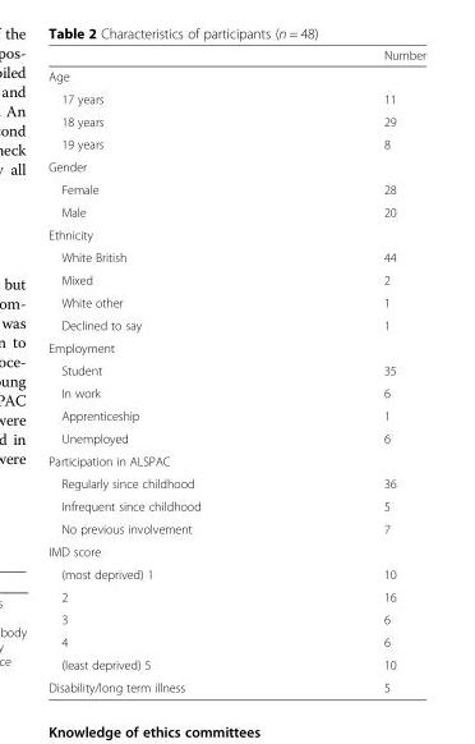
<table><thead><tr><td></td><td>Number</td></tr></thead><tbody><tr><td colspan="2">Age</td></tr><tr><td>17 years</td><td>11</td></tr><tr><td>18 years</td><td>29</td></tr><tr><td>19 years</td><td>8</td></tr><tr><td colspan="2">Gender</td></tr><tr><td>Female</td><td>28</td></tr><tr><td>Male</td><td>20</td></tr><tr><td colspan="2">Ethnicity</td></tr><tr><td>White British</td><td>44</td></tr><tr><td>Mixed</td><td>2</td></tr><tr><td>White other</td><td>1</td></tr><tr><td>Declined to say</td><td>1</td></tr><tr><td colspan="2">Employment</td></tr><tr><td>Student</td><td>35</td></tr><tr><td>In work</td><td>6</td></tr><tr><td>Apprenticeship</td><td>1</td></tr><tr><td>Unemployed</td><td>6</td></tr><tr><td colspan="2">Participation in ALSPAC</td></tr><tr><td>Regularly since childhood</td><td>36</td></tr><tr><td>Infrequent since childhood</td><td>5</td></tr><tr><td>No previous involvement</td><td>7</td></tr><tr><td colspan="2">IMD score</td></tr><tr><td>(most deprived) 1</td><td>10</td></tr><tr><td>2</td><td>16</td></tr><tr><td>3</td><td>6</td></tr><tr><td>4</td><td>6</td></tr><tr><td>(least deprived) 5</td><td>10</td></tr><tr><td>Disability/long term illness</td><td>5</td></tr></tbody></table>